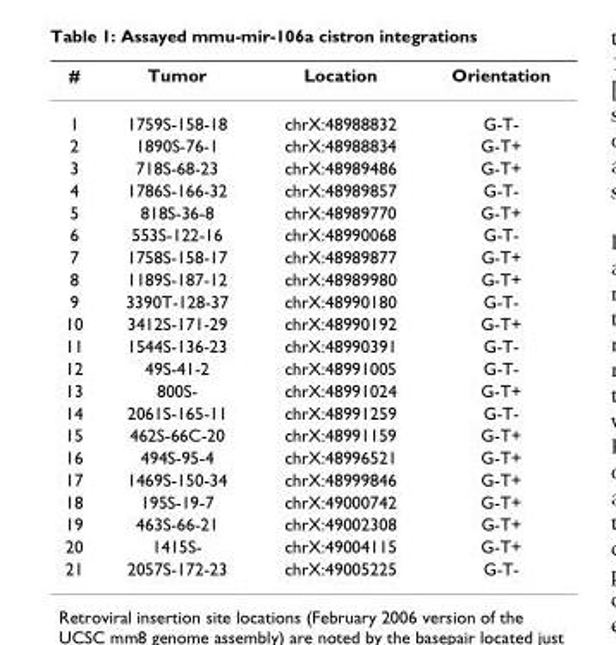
<table><thead><tr><td>#</td><td>Tumor</td><td>Location</td><td>Orientation</td></tr></thead><tbody><tr><td>1</td><td>1759S-158-18</td><td>chrX:48988832</td><td>G-T-</td></tr><tr><td>2</td><td>1890S-76-1</td><td>chrX:48988834</td><td>G-T+</td></tr><tr><td>3</td><td>718S-68-23</td><td>chrX:48989486</td><td>G-T+</td></tr><tr><td>4</td><td>1786S-166-32</td><td>chrX:48989857</td><td>G-T-</td></tr><tr><td>5</td><td>818S-36-8</td><td>chrX:48989770</td><td>G-T+</td></tr><tr><td>6</td><td>553S-122-16</td><td>chrX:48990068</td><td>G-T-</td></tr><tr><td>7</td><td>1758S-158-17</td><td>chrX:48989877</td><td>G-T+</td></tr><tr><td>8</td><td>1189S-187-12</td><td>chrX:48989980</td><td>G-T+</td></tr><tr><td>9</td><td>3390T-128-37</td><td>chrX:48990180</td><td>G-T-</td></tr><tr><td>10</td><td>3412S-171-29</td><td>chrX:48990192</td><td>G-T+</td></tr><tr><td>11</td><td>1544S-136-23</td><td>chrX:48990391</td><td>G-T-</td></tr><tr><td>12</td><td>49S-41-2</td><td>chrX:48991005</td><td>G-T-</td></tr><tr><td>13</td><td>800S-</td><td>chrX:48991024</td><td>G-T+</td></tr><tr><td>14</td><td>2061S-165-11</td><td>chrX:48991259</td><td>G-T-</td></tr><tr><td>15</td><td>462S-66C-20</td><td>chrX:48991159</td><td>G-T+</td></tr><tr><td>16</td><td>494S-95-4</td><td>chrX:48996521</td><td>G-T+</td></tr><tr><td>17</td><td>1469S-150-34</td><td>chrX:48999846</td><td>G-T+</td></tr><tr><td>18</td><td>195S-19-7</td><td>chrX:49000742</td><td>G-T+</td></tr><tr><td>19</td><td>463S-66-21</td><td>chrX:49002308</td><td>G-T+</td></tr><tr><td>20</td><td>1415S-</td><td>chrX:49004115</td><td>G-T+</td></tr><tr><td>21</td><td>2057S-172-23</td><td>chrX:49005225</td><td>G-T-</td></tr></tbody></table>